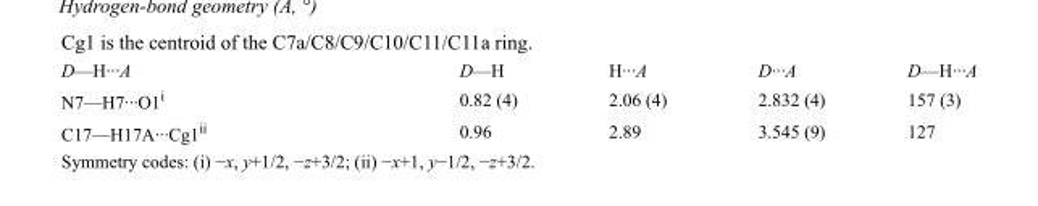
<table><tbody><tr><td>D—H···A</td><td>D—H</td><td>H···A</td><td>D···A</td><td>D—H···A</td></tr><tr><td>N7—H7···O1<sup>i</sup></td><td>0.82 (4)</td><td>2.06 (4)</td><td>2.832 (4)</td><td>157 (3)</td></tr><tr><td>C17—H17A···Cg1<sup>ii</sup></td><td>0.96</td><td>2.89</td><td>3.545 (9)</td><td>127</td></tr></tbody></table>